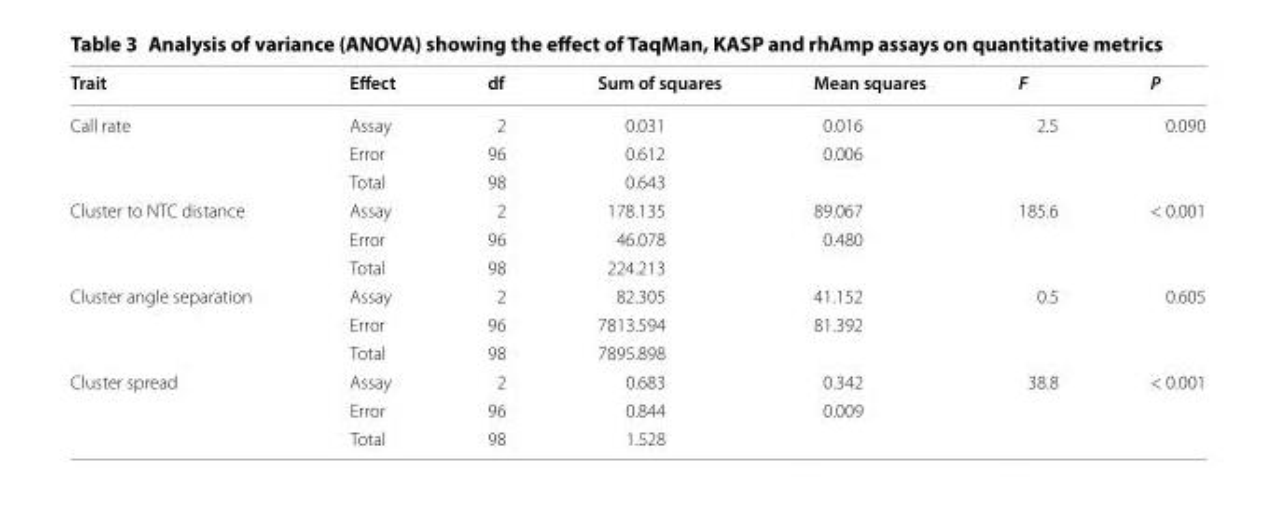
<table><thead><tr><td>Trait</td><td>Effect</td><td>df</td><td>Sum of squares</td><td>Mean squares</td><td>F</td><td>P</td></tr></thead><tbody><tr><td rowspan="3">Call rate</td><td>Assay</td><td>2</td><td>0.031</td><td>0.016</td><td>2.5</td><td>0.090</td></tr><tr><td>Error</td><td>96</td><td>0.612</td><td>0.006</td><td></td><td></td></tr><tr><td>Total</td><td>98</td><td>0.643</td><td></td><td></td><td></td></tr><tr><td rowspan="3">Cluster to NTC distance</td><td>Assay</td><td>2</td><td>178.135</td><td>89.067</td><td>185.6</td><td>&lt; 0.001</td></tr><tr><td>Error</td><td>96</td><td>46.078</td><td>0.480</td><td></td><td></td></tr><tr><td>Total</td><td>98</td><td>224.213</td><td></td><td></td><td></td></tr><tr><td rowspan="3">Cluster angle separation</td><td>Assay</td><td>2</td><td>82.305</td><td>41.152</td><td>0.5</td><td>0.605</td></tr><tr><td>Error</td><td>96</td><td>7813.594</td><td>81.392</td><td></td><td></td></tr><tr><td>Total</td><td>98</td><td>7895.898</td><td></td><td></td><td></td></tr><tr><td rowspan="3">Cluster spread</td><td>Assay</td><td>2</td><td>0.683</td><td>0.342</td><td>38.8</td><td>&lt; 0.001</td></tr><tr><td>Error</td><td>96</td><td>0.844</td><td>0.009</td><td></td><td></td></tr><tr><td>Total</td><td>98</td><td>1.528</td><td></td><td></td><td></td></tr></tbody></table>